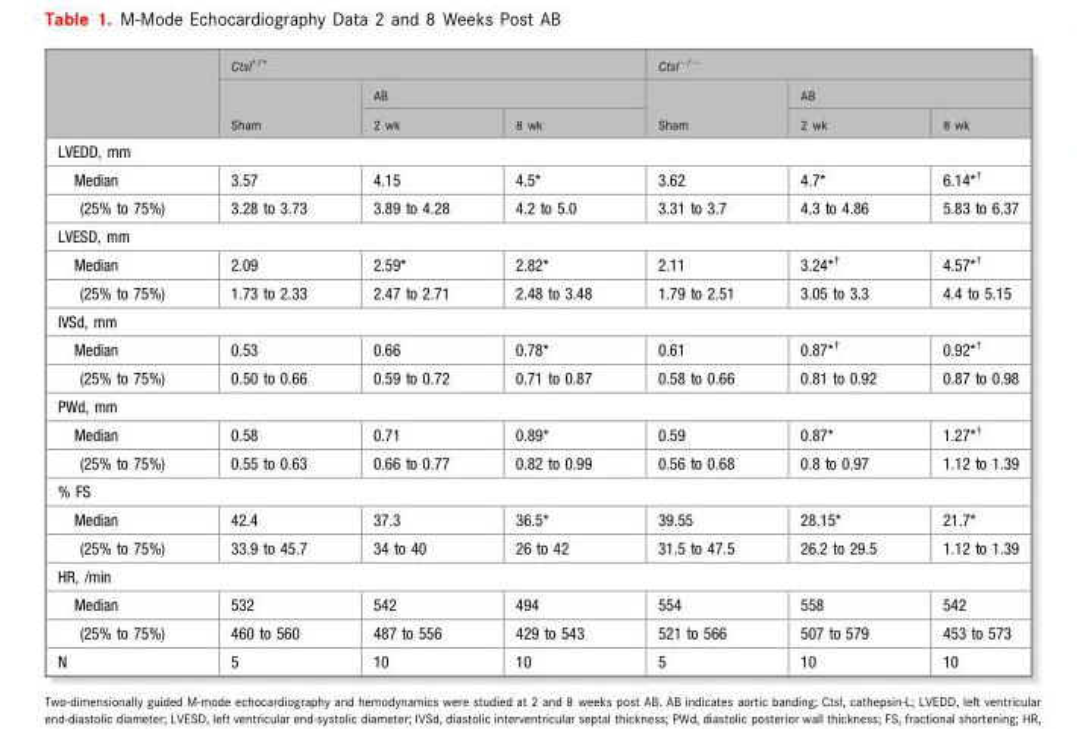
<table><thead><tr><td rowspan="3"></td><td colspan="3">Ctsl<sup>+/+</sup></td><td colspan="3">Ctsl<sup>−/−</sup></td></tr><tr><td rowspan="2">Sham</td><td colspan="2">AB</td><td rowspan="2">Sham</td><td colspan="2">AB</td></tr><tr><td>2 wk</td><td>8 wk</td><td>2 wk</td><td>8 wk</td></tr></thead><tbody><tr><td colspan="7">LVEDD, mm</td></tr><tr><td>Median</td><td>3.57</td><td>4.15</td><td>4.5*</td><td>3.62</td><td>4.7*</td><td>6.14*†</td></tr><tr><td>(25% to 75%)</td><td>3.28 to 3.73</td><td>3.89 to 4.28</td><td>4.2 to 5.0</td><td>3.31 to 3.7</td><td>4.3 to 4.86</td><td>5.83 to 6.37</td></tr><tr><td colspan="7">LVESD, mm</td></tr><tr><td>Median</td><td>2.09</td><td>2.59*</td><td>2.82*</td><td>2.11</td><td>3.24*†</td><td>4.57*†</td></tr><tr><td>(25% to 75%)</td><td>1.73 to 2.33</td><td>2.47 to 2.71</td><td>2.48 to 3.48</td><td>1.79 to 2.51</td><td>3.05 to 3.3</td><td>4.4 to 5.15</td></tr><tr><td colspan="7">IVSd, mm</td></tr><tr><td>Median</td><td>0.53</td><td>0.66</td><td>0.78*</td><td>0.61</td><td>0.87*†</td><td>0.92*†</td></tr><tr><td>(25% to 75%)</td><td>0.50 to 0.66</td><td>0.59 to 0.72</td><td>0.71 to 0.87</td><td>0.58 to 0.66</td><td>0.81 to 0.92</td><td>0.87 to 0.98</td></tr><tr><td colspan="7">PWd, mm</td></tr><tr><td>Median</td><td>0.58</td><td>0.71</td><td>0.89*</td><td>0.59</td><td>0.87*</td><td>1.27*†</td></tr><tr><td>(25% to 75%)</td><td>0.55 to 0.63</td><td>0.66 to 0.77</td><td>0.82 to 0.99</td><td>0.56 to 0.68</td><td>0.8 to 0.97</td><td>1.12 to 1.39</td></tr><tr><td colspan="7">% FS</td></tr><tr><td>Median</td><td>42.4</td><td>37.3</td><td>36.5*</td><td>39.55</td><td>28.15*</td><td>21.7*</td></tr><tr><td>(25% to 75%)</td><td>33.9 to 45.7</td><td>34 to 40</td><td>26 to 42</td><td>31.5 to 47.5</td><td>26.2 to 29.5</td><td>1.12 to 1.39</td></tr><tr><td colspan="7">HR, /min</td></tr><tr><td>Median</td><td>532</td><td>542</td><td>494</td><td>554</td><td>558</td><td>542</td></tr><tr><td>(25% to 75%)</td><td>460 to 560</td><td>487 to 556</td><td>429 to 543</td><td>521 to 566</td><td>507 to 579</td><td>453 to 573</td></tr><tr><td>N</td><td>5</td><td>10</td><td>10</td><td>5</td><td>10</td><td>10</td></tr></tbody></table>